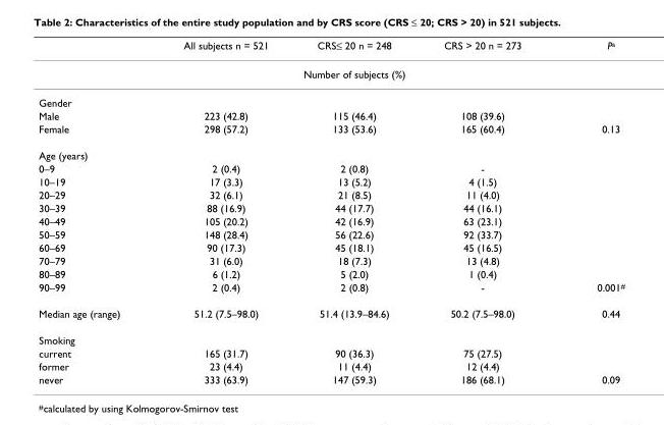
<table><thead><tr><td></td><td>All subjects n = 521</td><td>CRS≤ 20 n = 248</td><td>CRS &gt; 20 n = 273</td><td>P<sup>a</sup></td></tr></thead><tbody><tr><td colspan="5">Number of subjects (%)</td></tr><tr><td colspan="5">Gender</td></tr><tr><td>Male</td><td>223 (42.8)</td><td>115 (46.4)</td><td>108 (39.6)</td><td></td></tr><tr><td>Female</td><td>298 (57.2)</td><td>133 (53.6)</td><td>165 (60.4)</td><td>0.13</td></tr><tr><td colspan="5">Age (years)</td></tr><tr><td>0–9</td><td>2 (0.4)</td><td>2 (0.8)</td><td>-</td><td></td></tr><tr><td>10–19</td><td>17 (3.3)</td><td>13 (5.2)</td><td>4 (1.5)</td><td></td></tr><tr><td>20–29</td><td>32 (6.1)</td><td>21 (8.5)</td><td>11 (4.0)</td><td></td></tr><tr><td>30–39</td><td>88 (16.9)</td><td>44 (17.7)</td><td>44 (16.1)</td><td></td></tr><tr><td>40–49</td><td>105 (20.2)</td><td>42 (16.9)</td><td>63 (23.1)</td><td></td></tr><tr><td>50–59</td><td>148 (28.4)</td><td>56 (22.6)</td><td>92 (33.7)</td><td></td></tr><tr><td>60–69</td><td>90 (17.3)</td><td>45 (18.1)</td><td>45 (16.5)</td><td></td></tr><tr><td>70–79</td><td>31 (6.0)</td><td>18 (7.3)</td><td>13 (4.8)</td><td></td></tr><tr><td>80–89</td><td>6 (1.2)</td><td>5 (2.0)</td><td>1 (0.4)</td><td></td></tr><tr><td>90–99</td><td>2 (0.4)</td><td>2 (0.8)</td><td>-</td><td>0.001<sup>#</sup></td></tr><tr><td>Median age (range)</td><td>51.2 (7.5–98.0)</td><td>51.4 (13.9–84.6)</td><td>50.2 (7.5–98.0)</td><td>0.44</td></tr><tr><td colspan="5">Smoking</td></tr><tr><td>current</td><td>165 (31.7)</td><td>90 (36.3)</td><td>75 (27.5)</td><td></td></tr><tr><td>former</td><td>23 (4.4)</td><td>11 (4.4)</td><td>12 (4.4)</td><td></td></tr><tr><td>never</td><td>333 (63.9)</td><td>147 (59.3)</td><td>186 (68.1)</td><td>0.09</td></tr></tbody></table>